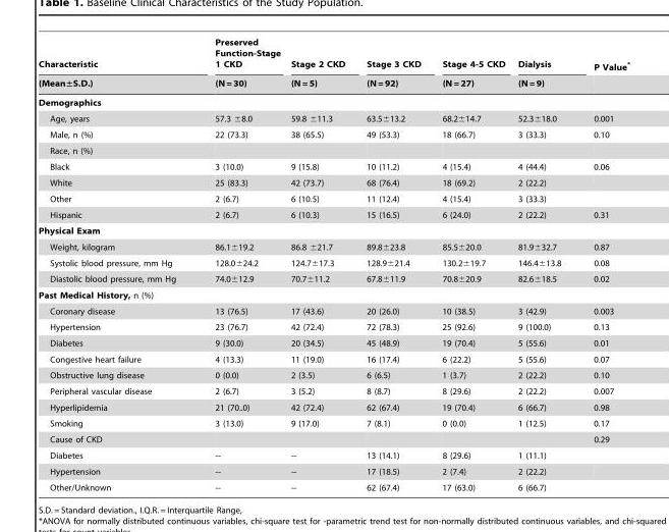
<table><thead><tr><td rowspan="2">Characteristic (Mean±S.D.)</td><td rowspan="2">Preserved Function-Stage 1 CKD (N = 30)</td><td rowspan="2">Stage 2 CKD (N = 5)</td><td rowspan="2">Stage 3 CKD (N = 92)</td><td rowspan="2">Stage 4-5 CKD (N = 27)</td><td rowspan="2">Dialysis (N = 9)</td><td rowspan="2">P Value*</td></tr><tr></tr></thead><tbody><tr><td colspan="7">Demographics</td></tr><tr><td>Age, years</td><td>57.3 ±8.0</td><td>59.8 ±11.3</td><td>63.5±13.2</td><td>68.2±14.7</td><td>52.3±18.0</td><td>0.001</td></tr><tr><td>Male, n (%)</td><td>22 (73.3)</td><td>38 (65.5)</td><td>49 (53.3)</td><td>18 (66.7)</td><td>3 (33.3)</td><td>0.10</td></tr><tr><td colspan="7">Race, n (%)</td></tr><tr><td>Black</td><td>3 (10.0)</td><td>9 (15.8)</td><td>10 (11.2)</td><td>4 (15.4)</td><td>4 (44.4)</td><td>0.06</td></tr><tr><td>White</td><td>25 (83.3)</td><td>42 (73.7)</td><td>68 (76.4)</td><td>18 (69.2)</td><td>2 (22.2)</td><td></td></tr><tr><td>Other</td><td>2 (6.7)</td><td>6 (10.5)</td><td>11 (12.4)</td><td>4 (15.4)</td><td>3 (33.3)</td><td></td></tr><tr><td>Hispanic</td><td>2 (6.7)</td><td>6 (10.3)</td><td>15 (16.5)</td><td>6 (24.0)</td><td>2 (22.2)</td><td>0.31</td></tr><tr><td colspan="7">Physical Exam</td></tr><tr><td>Weight, kilogram</td><td>86.1±19.2</td><td>86.8 ±21.7</td><td>89.8±23.8</td><td>85.5±20.0</td><td>81.9±32.7</td><td>0.87</td></tr><tr><td>Systolic blood pressure, mm Hg</td><td>128.0±24.2</td><td>124.7±17.3</td><td>128.9±21.4</td><td>130.2±19.7</td><td>146.4±13.8</td><td>0.08</td></tr><tr><td>Diastolic blood pressure, mm Hg</td><td>74.0±12.9</td><td>70.7±11.2</td><td>67.8±11.9</td><td>70.8±20.9</td><td>82.6±18.5</td><td>0.02</td></tr><tr><td colspan="7">Past Medical History, n (%)</td></tr><tr><td>Coronary disease</td><td>13 (76.5)</td><td>17 (43.6)</td><td>20 (26.0)</td><td>10 (38.5)</td><td>3 (42.9)</td><td>0.003</td></tr><tr><td>Hypertension</td><td>23 (76.7)</td><td>42 (72.4)</td><td>72 (78.3)</td><td>25 (92.6)</td><td>9 (100.0)</td><td>0.13</td></tr><tr><td>Diabetes</td><td>9 (30.0)</td><td>20 (34.5)</td><td>45 (48.9)</td><td>19 (70.4)</td><td>5 (55.6)</td><td>0.01</td></tr><tr><td>Congestive heart failure</td><td>4 (13.3)</td><td>11 (19.0)</td><td>16 (17.4)</td><td>6 (22.2)</td><td>5 (55.6)</td><td>0.07</td></tr><tr><td>Obstructive lung disease</td><td>0 (0.0)</td><td>2 (3.5)</td><td>6 (6.5)</td><td>1 (3.7)</td><td>2 (22.2)</td><td>0.10</td></tr><tr><td>Peripheral vascular disease</td><td>2 (6.7)</td><td>3 (5.2)</td><td>8 (8.7)</td><td>8 (29.6)</td><td>2 (22.2)</td><td>0.007</td></tr><tr><td>Hyperlipidemia</td><td>21 (70..0)</td><td>42 (72.4)</td><td>62 (67.4)</td><td>19 (70.4)</td><td>6 (66.7)</td><td>0.98</td></tr><tr><td>Smoking</td><td>3 (13.0)</td><td>9 (17.0)</td><td>7 (8.1)</td><td>0 (0.0)</td><td>1 (12.5)</td><td>0.17</td></tr><tr><td>Cause of CKD</td><td></td><td></td><td></td><td></td><td></td><td>0.29</td></tr><tr><td>Diabetes</td><td>--</td><td>--</td><td>13 (14.1)</td><td>8 (29.6)</td><td>1 (11.1)</td><td></td></tr><tr><td>Hypertension</td><td>--</td><td>--</td><td>17 (18.5)</td><td>2 (7.4)</td><td>2 (22.2)</td><td></td></tr><tr><td>Other/Unknown</td><td>--</td><td>--</td><td>62 (67.4)</td><td>17 (63.0)</td><td>6 (66.7)</td><td></td></tr></tbody></table>